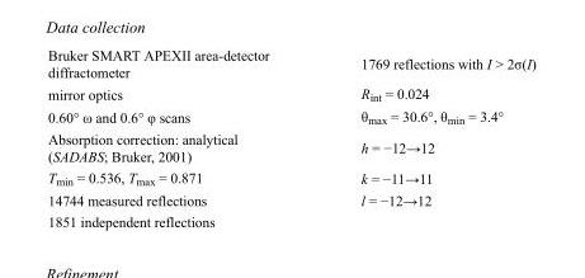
<table><tbody><tr><td>Bruker SMART APEXII area-detector diffractometer</td><td>1769 reflections with I &gt; 2σ(I)</td></tr><tr><td>mirror optics</td><td>R<sub>int</sub> = 0.024</td></tr><tr><td>0.60° ω and 0.6° φ scans</td><td>θ<sub>max</sub> = 30.6°, θ<sub>min</sub> = 3.4°</td></tr><tr><td>Absorption correction: analytical (SADABS; Bruker, 2001)</td><td>h = −12→12</td></tr><tr><td>T<sub>min</sub> = 0.536, T<sub>max</sub> = 0.871</td><td>k = −11→11</td></tr><tr><td>14744 measured reflections</td><td>l = −12→12</td></tr><tr><td>1851 independent reflections</td><td></td></tr></tbody></table>